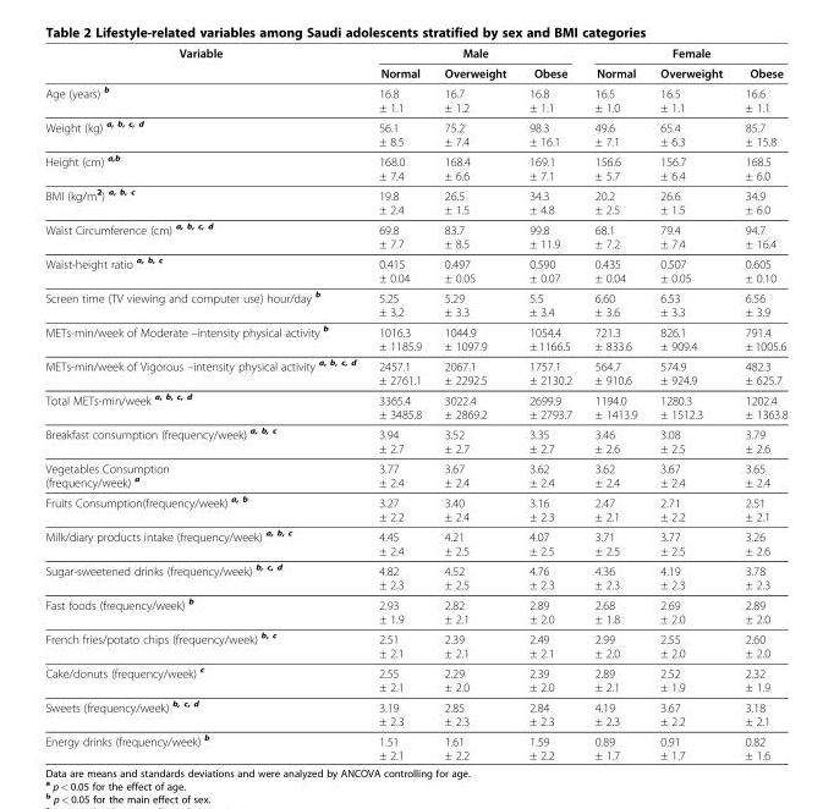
<table><thead><tr><td rowspan="2">Variable</td><td colspan="3">Male</td><td colspan="3">Female</td></tr><tr><td>Normal</td><td>Overweight</td><td>Obese</td><td>Normal</td><td>Overweight</td><td>Obese</td></tr></thead><tbody><tr><td>Age (years) <sup>b</sup></td><td>16.8 ± 1.1</td><td>16.7 ± 1.2</td><td>16.8 ± 1.1</td><td>16.5 ± 1.0</td><td>16.5 ± 1.1</td><td>16.6 ± 1.1</td></tr><tr><td>Weight (kg) <sup>a, b, c, d</sup></td><td>56.1 ± 8.5</td><td>75.2 ± 7.4</td><td>98.3 ± 16.1</td><td>49.6 ± 7.1</td><td>65.4 ± 6.3</td><td>85.7 ± 15.8</td></tr><tr><td>Height (cm) <sup>a,b</sup></td><td>168.0 ± 7.4</td><td>168.4 ± 6.6</td><td>169.1 ± 7.1</td><td>156.6 ± 5.7</td><td>156.7 ± 6.4</td><td>168.5 ± 6.0</td></tr><tr><td>BMI (kg/m<sup>2</sup>) <sup>a, b, c</sup></td><td>19.8 ± 2.4</td><td>26.5 ± 1.5</td><td>34.3 ± 4.8</td><td>20.2 ± 2.5</td><td>26.6 ± 1.5</td><td>34.9 ± 6.0</td></tr><tr><td>Waist Circumference (cm) <sup>a, b, c, d</sup></td><td>69.8 ± 7.7</td><td>83.7 ± 8.5</td><td>99.8 ± 11.9</td><td>68.1 ± 7.2</td><td>79.4 ± 7.4</td><td>94.7 ± 16.4</td></tr><tr><td>Waist-height ratio <sup>a, b, c</sup></td><td>0.415 ± 0.04</td><td>0.497 ± 0.05</td><td>0.590 ± 0.07</td><td>0.435 ± 0.04</td><td>0.507 ± 0.05</td><td>0.605 ± 0.10</td></tr><tr><td>Screen time (TV viewing and computer use) hour/day <sup>b</sup></td><td>5.25 ± 3.2</td><td>5.29 ± 3.3</td><td>5.5 ± 3.4</td><td>6.60 ± 3.6</td><td>6.53 ± 3.3</td><td>6.56 ± 3.9</td></tr><tr><td>METs-min/week of Moderate –intensity physical activity <sup>b</sup></td><td>1016.3 ± 1185.9</td><td>1044.9 ± 1097.9</td><td>1054.4 ± 1166.5</td><td>721.3 ± 833.6</td><td>826.1 ± 909.4</td><td>791.4 ± 1005.6</td></tr><tr><td>METs-min/week of Vigorous –intensity physical activity <sup>a, b, c, d</sup></td><td>2457.1 ± 2761.1</td><td>2067.1 ± 2292.5</td><td>1757.1 ± 2130.2</td><td>564.7 ± 910.6</td><td>574.9 ± 924.9</td><td>482.3 ± 625.7</td></tr><tr><td>Total METs-min/week <sup>a, b, c, d</sup></td><td>3365.4 ± 3485.8</td><td>3022.4 ± 2869.2</td><td>2699.9 ± 2793.7</td><td>1194.0 ± 1413.9</td><td>1280.3 ± 1512.3</td><td>1202.4 ± 1363.8</td></tr><tr><td>Breakfast consumption (frequency/week) <sup>a, b, c</sup></td><td>3.94 ± 2.7</td><td>3.52 ± 2.7</td><td>3.35 ± 2.7</td><td>3.46 ± 2.6</td><td>3.08 ± 2.5</td><td>3.79 ± 2.6</td></tr><tr><td>Vegetables Consumption (frequency/week) <sup>a</sup></td><td>3.77 ± 2.4</td><td>3.67 ± 2.4</td><td>3.62 ± 2.4</td><td>3.62 ± 2.4</td><td>3.67 ± 2.4</td><td>3.65 ± 2.4</td></tr><tr><td>Fruits Consumption(frequency/week) <sup>a, b</sup></td><td>3.27 ± 2.2</td><td>3.40 ± 2.4</td><td>3.16 ± 2.3</td><td>2.47 ± 2.1</td><td>2.71 ± 2.2</td><td>2.51 ± 2.1</td></tr><tr><td>Milk/diary products intake (frequency/week) <sup>a, b, c</sup></td><td>4.45 ± 2.4</td><td>4.21 ± 2.5</td><td>4.07 ± 2.5</td><td>3.71 ± 2.5</td><td>3.77 ± 2.5</td><td>3.26 ± 2.6</td></tr><tr><td>Sugar-sweetened drinks (frequency/week) <sup>b, c, d</sup></td><td>4.82 ± 2.3</td><td>4.52 ± 2.5</td><td>4.76 ± 2.3</td><td>4.36 ± 2.3</td><td>4.19 ± 2.3</td><td>3.78 ± 2.3</td></tr><tr><td>Fast foods (frequency/week) <sup>b</sup></td><td>2.93 ± 1.9</td><td>2.82 ± 2.1</td><td>2.89 ± 2.0</td><td>2.68 ± 1.8</td><td>2.69 ± 2.0</td><td>2.89 ± 2.0</td></tr><tr><td>French fries/potato chips (frequency/week) <sup>b, c</sup></td><td>2.51 ± 2.1</td><td>2.39 ± 2.1</td><td>2.49 ± 2.1</td><td>2.99 ± 2.0</td><td>2.55 ± 2.0</td><td>2.60 ± 2.0</td></tr><tr><td>Cake/donuts (frequency/week) <sup>c</sup></td><td>2.55 ± 2.1</td><td>2.29 ± 2.0</td><td>2.39 ± 2.0</td><td>2.89 ± 2.1</td><td>2.52 ± 1.9</td><td>2.32 ± 1.9</td></tr><tr><td>Sweets (frequency/week) <sup>b, c, d</sup></td><td>3.19 ± 2.3</td><td>2.85 ± 2.3</td><td>2.84 ± 2.3</td><td>4.19 ± 2.3</td><td>3.67 ± 2.2</td><td>3.18 ± 2.1</td></tr><tr><td>Energy drinks (frequency/week) <sup>b</sup></td><td>1.51 ± 2.1</td><td>1.61 ± 2.2</td><td>1.59 ± 2.2</td><td>0.89 ± 1.7</td><td>0.91 ± 1.7</td><td>0.82 ± 1.6</td></tr></tbody></table>